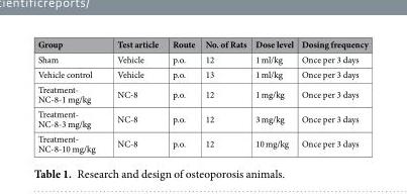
<table><thead><tr><td>Group</td><td>Test article</td><td>Route</td><td>No. of Rats</td><td>Dose level</td><td>Dosing frequency</td></tr></thead><tbody><tr><td>Sham</td><td>Vehicle</td><td>p.o.</td><td>12</td><td>1 ml/kg</td><td>Once per 3 days</td></tr><tr><td>Vehicle control</td><td>Vehicle</td><td>p.o.</td><td>13</td><td>1 ml/kg</td><td>Once per 3 days</td></tr><tr><td>Treatment- NC-8-1 mg/kg</td><td>NC-8</td><td>p.o.</td><td>12</td><td>1 mg/kg</td><td>Once per 3 days</td></tr><tr><td>Treatment- NC-8-3 mg/kg</td><td>NC-8</td><td>p.o.</td><td>12</td><td>3 mg/kg</td><td>Once per 3 days</td></tr><tr><td>Treatment- NC-8-10 mg/kg</td><td>NC-8</td><td>p.o.</td><td>12</td><td>10 mg/kg</td><td>Once per 3 days</td></tr></tbody></table>